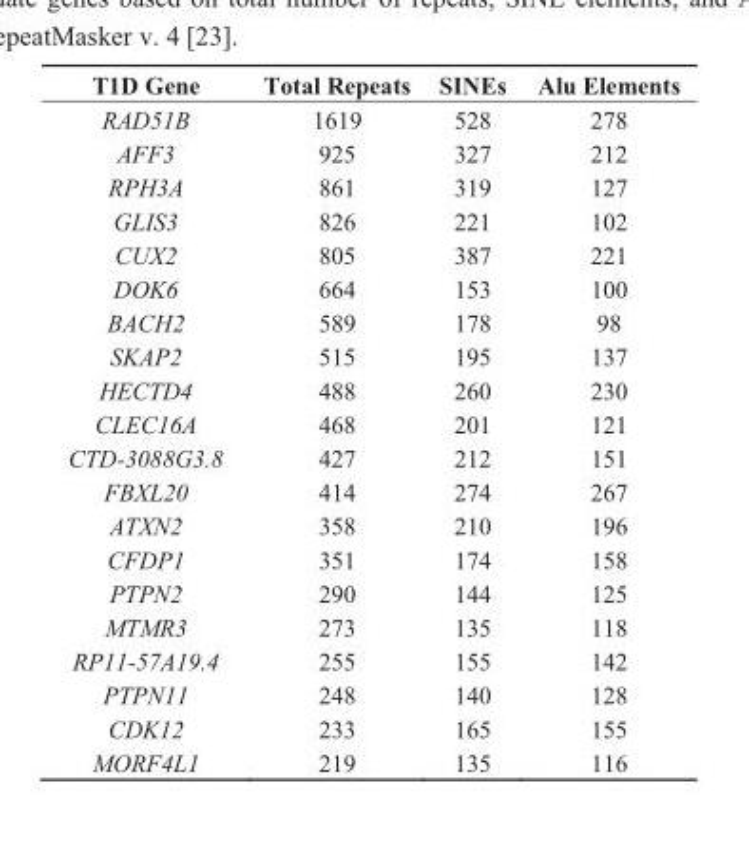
<table><thead><tr><td>T1D Gene</td><td>Total Repeats</td><td>SINEs</td><td>Alu Elements</td></tr></thead><tbody><tr><td>RAD51B</td><td>1619</td><td>528</td><td>278</td></tr><tr><td>AFF3</td><td>925</td><td>327</td><td>212</td></tr><tr><td>RPH3A</td><td>861</td><td>319</td><td>127</td></tr><tr><td>GLIS3</td><td>826</td><td>221</td><td>102</td></tr><tr><td>CUX2</td><td>805</td><td>387</td><td>221</td></tr><tr><td>DOK6</td><td>664</td><td>153</td><td>100</td></tr><tr><td>BACH2</td><td>589</td><td>178</td><td>98</td></tr><tr><td>SKAP2</td><td>515</td><td>195</td><td>137</td></tr><tr><td>HECTD4</td><td>488</td><td>260</td><td>230</td></tr><tr><td>CLEC16A</td><td>468</td><td>201</td><td>121</td></tr><tr><td>CTD-3088G3.8</td><td>427</td><td>212</td><td>151</td></tr><tr><td>FBXL20</td><td>414</td><td>274</td><td>267</td></tr><tr><td>ATXN2</td><td>358</td><td>210</td><td>196</td></tr><tr><td>CFDP1</td><td>351</td><td>174</td><td>158</td></tr><tr><td>PTPN2</td><td>290</td><td>144</td><td>125</td></tr><tr><td>MTMR3</td><td>273</td><td>135</td><td>118</td></tr><tr><td>RP11-57A19.4</td><td>255</td><td>155</td><td>142</td></tr><tr><td>PTPN11</td><td>248</td><td>140</td><td>128</td></tr><tr><td>CDK12</td><td>233</td><td>165</td><td>155</td></tr><tr><td>MORF4L1</td><td>219</td><td>135</td><td>116</td></tr></tbody></table>